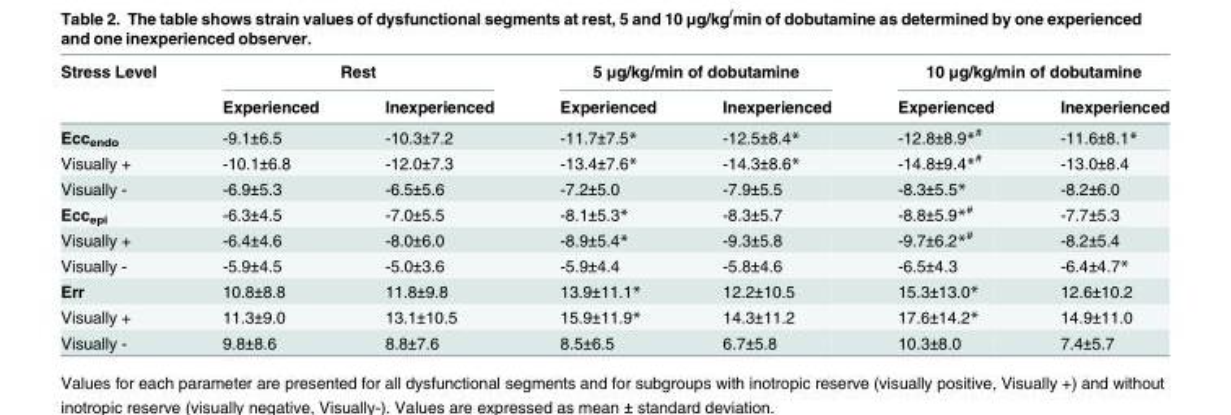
<table><thead><tr><td rowspan="2">Stress Level</td><td colspan="2">Rest</td><td colspan="2">5 μg/kg/min of dobutamine</td><td colspan="2">10 μg/kg/min of dobutamine</td></tr><tr><td>Experienced</td><td>Inexperienced</td><td>Experienced</td><td>Inexperienced</td><td>Experienced</td><td>Inexperienced</td></tr></thead><tbody><tr><td>Ecc<sub>endo</sub></td><td>-9.1±6.5</td><td>-10.3±7.2</td><td>-11.7±7.5*</td><td>-12.5±8.4*</td><td>-12.8±8.9*<sup>#</sup></td><td>-11.6±8.1*</td></tr><tr><td>Visually +</td><td>-10.1±6.8</td><td>-12.0±7.3</td><td>-13.4±7.6*</td><td>-14.3±8.6*</td><td>-14.8±9.4*<sup>#</sup></td><td>-13.0±8.4</td></tr><tr><td>Visually -</td><td>-6.9±5.3</td><td>-6.5±5.6</td><td>-7.2±5.0</td><td>-7.9±5.5</td><td>-8.3±5.5*</td><td>-8.2±6.0</td></tr><tr><td>Ecc<sub>epi</sub></td><td>-6.3±4.5</td><td>-7.0±5.5</td><td>-8.1±5.3*</td><td>-8.3±5.7</td><td>-8.8±5.9*<sup>#</sup></td><td>-7.7±5.3</td></tr><tr><td>Visually +</td><td>-6.4±4.6</td><td>-8.0±6.0</td><td>-8.9±5.4*</td><td>-9.3±5.8</td><td>-9.7±6.2*<sup>#</sup></td><td>-8.2±5.4</td></tr><tr><td>Visually -</td><td>-5.9±4.5</td><td>-5.0±3.6</td><td>-5.9±4.4</td><td>-5.8±4.6</td><td>-6.5±4.3</td><td>-6.4±4.7*</td></tr><tr><td>Err</td><td>10.8±8.8</td><td>11.8±9.8</td><td>13.9±11.1*</td><td>12.2±10.5</td><td>15.3±13.0*</td><td>12.6±10.2</td></tr><tr><td>Visually +</td><td>11.3±9.0</td><td>13.1±10.5</td><td>15.9±11.9*</td><td>14.3±11.2</td><td>17.6±14.2*</td><td>14.9±11.0</td></tr><tr><td>Visually -</td><td>9.8±8.6</td><td>8.8±7.6</td><td>8.5±6.5</td><td>6.7±5.8</td><td>10.3±8.0</td><td>7.4±5.7</td></tr></tbody></table>